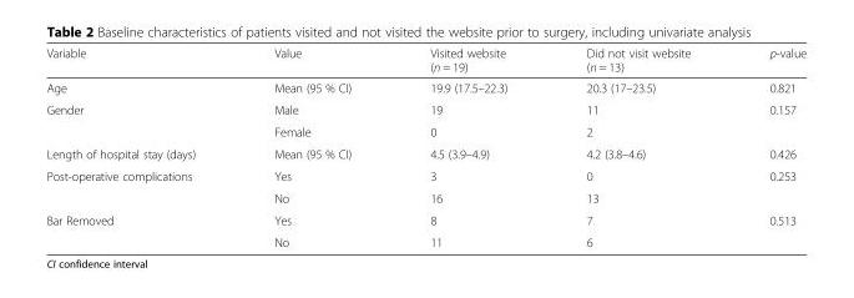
<table><thead><tr><td>Variable</td><td>Value</td><td>Visited website (n = 19)</td><td>Did not visit website (n = 13)</td><td>p-value</td></tr></thead><tbody><tr><td>Age</td><td>Mean (95 % CI)</td><td>19.9 (17.5–22.3)</td><td>20.3 (17–23.5)</td><td>0.821</td></tr><tr><td rowspan="2">Gender</td><td>Male</td><td>19</td><td>11</td><td>0.157</td></tr><tr><td>Female</td><td>0</td><td>2</td><td></td></tr><tr><td>Length of hospital stay (days)</td><td>Mean (95 % CI)</td><td>4.5 (3.9–4.9)</td><td>4.2 (3.8–4.6)</td><td>0.426</td></tr><tr><td rowspan="2">Post-operative complications</td><td>Yes</td><td>3</td><td>0</td><td>0.253</td></tr><tr><td>No</td><td>16</td><td>13</td><td></td></tr><tr><td rowspan="2">Bar Removed</td><td>Yes</td><td>8</td><td>7</td><td>0.513</td></tr><tr><td>No</td><td>11</td><td>6</td><td></td></tr></tbody></table>